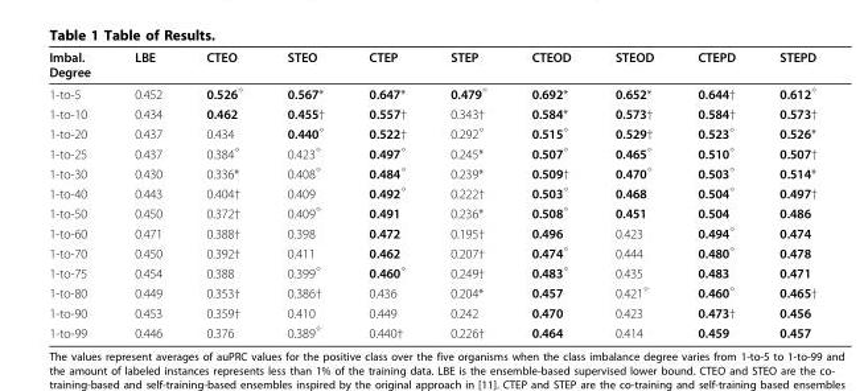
<table><thead><tr><td>Imbal. Degree</td><td>LBE</td><td>CTEO</td><td>STEO</td><td>CTEP</td><td>STEP</td><td>CTEOD</td><td>STEOD</td><td>CTEPD</td><td>STEPD</td></tr></thead><tbody><tr><td>1-to-5</td><td>0.452</td><td>0.526<sup>◇</sup></td><td>0.567*</td><td>0.647*</td><td>0.479<sup>◇</sup></td><td>0.692*</td><td>0.652*</td><td>0.644†</td><td>0.612<sup>◇</sup></td></tr><tr><td>1-to-10</td><td>0.434</td><td>0.462</td><td>0.455†</td><td>0.557†</td><td>0.343†</td><td>0.584*</td><td>0.573†</td><td>0.584†</td><td>0.573†</td></tr><tr><td>1-to-20</td><td>0.437</td><td>0.434</td><td>0.440<sup>◇</sup></td><td>0.522†</td><td>0.292<sup>◇</sup></td><td>0.515<sup>◇</sup></td><td>0.529†</td><td>0.523<sup>◇</sup></td><td>0.526*</td></tr><tr><td>1-to-25</td><td>0.437</td><td>0.384<sup>◇</sup></td><td>0.423<sup>◇</sup></td><td>0.497<sup>◇</sup></td><td>0.245*</td><td>0.507<sup>◇</sup></td><td>0.465<sup>◇</sup></td><td>0.510<sup>◇</sup></td><td>0.507†</td></tr><tr><td>1-to-30</td><td>0.430</td><td>0.336*</td><td>0.408<sup>◇</sup></td><td>0.484<sup>◇</sup></td><td>0.239*</td><td>0.509†</td><td>0.470<sup>◇</sup></td><td>0.503<sup>◇</sup></td><td>0.514*</td></tr><tr><td>1-to-40</td><td>0.443</td><td>0.404†</td><td>0.409</td><td>0.492<sup>◇</sup></td><td>0.222†</td><td>0.503<sup>◇</sup></td><td>0.468</td><td>0.504<sup>◇</sup></td><td>0.497†</td></tr><tr><td>1-to-50</td><td>0.450</td><td>0.372†</td><td>0.409<sup>◇</sup></td><td>0.491</td><td>0.236*</td><td>0.508<sup>◇</sup></td><td>0.451</td><td>0.504</td><td>0.486</td></tr><tr><td>1-to-60</td><td>0.471</td><td>0.388†</td><td>0.398</td><td>0.472</td><td>0.195†</td><td>0.496</td><td>0.423</td><td>0.494<sup>◇</sup></td><td>0.474</td></tr><tr><td>1-to-70</td><td>0.450</td><td>0.392†</td><td>0.411</td><td>0.462</td><td>0.207†</td><td>0.474<sup>◇</sup></td><td>0.444</td><td>0.480<sup>◇</sup></td><td>0.478</td></tr><tr><td>1-to-75</td><td>0.454</td><td>0.388</td><td>0.399<sup>◇</sup></td><td>0.460<sup>◇</sup></td><td>0.249†</td><td>0.483<sup>◇</sup></td><td>0.435</td><td>0.483</td><td>0.471</td></tr><tr><td>1-to-80</td><td>0.449</td><td>0.353†</td><td>0.386†</td><td>0.436</td><td>0.204*</td><td>0.457</td><td>0.421<sup>◇</sup></td><td>0.460<sup>◇</sup></td><td>0.465†</td></tr><tr><td>1-to-90</td><td>0.453</td><td>0.359†</td><td>0.410</td><td>0.449</td><td>0.242</td><td>0.470</td><td>0.423</td><td>0.473†</td><td>0.456</td></tr><tr><td>1-to-99</td><td>0.446</td><td>0.376</td><td>0.389<sup>◇</sup></td><td>0.440†</td><td>0.226†</td><td>0.464</td><td>0.414</td><td>0.459</td><td>0.457</td></tr></tbody></table>